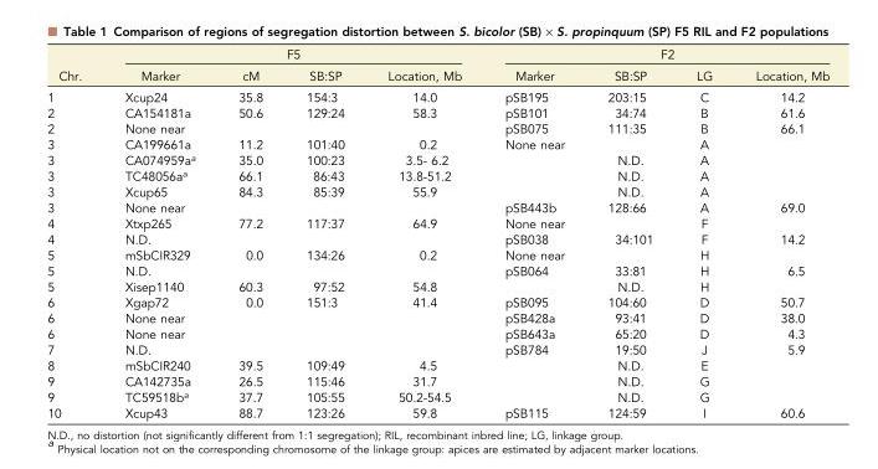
<table><thead><tr><td rowspan="2">Chr.</td><td colspan="4">F5</td><td colspan="4">F2</td></tr><tr><td>Marker</td><td>cM</td><td>SB:SP</td><td>Location, Mb</td><td>Marker</td><td>SB:SP</td><td>LG</td><td>Location, Mb</td></tr></thead><tbody><tr><td>1</td><td>Xcup24</td><td>35.8</td><td>154:3</td><td>14.0</td><td>pSB195</td><td>203:15</td><td>C</td><td>14.2</td></tr><tr><td>2</td><td>CA154181a</td><td>50.6</td><td>129:24</td><td>58.3</td><td>pSB101</td><td>34:74</td><td>B</td><td>61.6</td></tr><tr><td>2</td><td>None near</td><td></td><td></td><td></td><td>pSB075</td><td>111:35</td><td>B</td><td>66.1</td></tr><tr><td>3</td><td>CA199661a</td><td>11.2</td><td>101:40</td><td>0.2</td><td>None near</td><td></td><td>A</td><td></td></tr><tr><td>3</td><td>CA074959a<sup>a</sup></td><td>35.0</td><td>100:23</td><td>3.5- 6.2</td><td></td><td>N.D.</td><td>A</td><td></td></tr><tr><td>3</td><td>TC48056a<sup>a</sup></td><td>66.1</td><td>86:43</td><td>13.8-51.2</td><td></td><td>N.D.</td><td>A</td><td></td></tr><tr><td>3</td><td>Xcup65</td><td>84.3</td><td>85:39</td><td>55.9</td><td></td><td>N.D.</td><td>A</td><td></td></tr><tr><td>3</td><td>None near</td><td></td><td></td><td></td><td>pSB443b</td><td>128:66</td><td>A</td><td>69.0</td></tr><tr><td>4</td><td>Xtxp265</td><td>77.2</td><td>117:37</td><td>64.9</td><td>None near</td><td></td><td>F</td><td></td></tr><tr><td>4</td><td>N.D.</td><td></td><td></td><td></td><td>pSB038</td><td>34:101</td><td>F</td><td>14.2</td></tr><tr><td>5</td><td>mSbCIR329</td><td>0.0</td><td>134:26</td><td>0.2</td><td>None near</td><td></td><td>H</td><td></td></tr><tr><td>5</td><td>N.D.</td><td></td><td></td><td></td><td>pSB064</td><td>33:81</td><td>H</td><td>6.5</td></tr><tr><td>5</td><td>Xisep1140</td><td>60.3</td><td>97:52</td><td>54.8</td><td></td><td>N.D.</td><td>H</td><td></td></tr><tr><td>6</td><td>Xgap72</td><td>0.0</td><td>151:3</td><td>41.4</td><td>pSB095</td><td>104:60</td><td>D</td><td>50.7</td></tr><tr><td>6</td><td>None near</td><td></td><td></td><td></td><td>pSB428a</td><td>93:41</td><td>D</td><td>38.0</td></tr><tr><td>6</td><td>None near</td><td></td><td></td><td></td><td>pSB643a</td><td>65:20</td><td>D</td><td>4.3</td></tr><tr><td>7</td><td>N.D.</td><td></td><td></td><td></td><td>pSB784</td><td>19:50</td><td>J</td><td>5.9</td></tr><tr><td>8</td><td>mSbCIR240</td><td>39.5</td><td>109:49</td><td>4.5</td><td></td><td>N.D.</td><td>E</td><td></td></tr><tr><td>9</td><td>CA142735a</td><td>26.5</td><td>115:46</td><td>31.7</td><td></td><td>N.D.</td><td>G</td><td></td></tr><tr><td>9</td><td>TC59518b<sup>a</sup></td><td>37.7</td><td>105:55</td><td>50.2-54.5</td><td></td><td>N.D.</td><td>G</td><td></td></tr><tr><td>10</td><td>Xcup43</td><td>88.7</td><td>123:26</td><td>59.8</td><td>pSB115</td><td>124:59</td><td>I</td><td>60.6</td></tr></tbody></table>